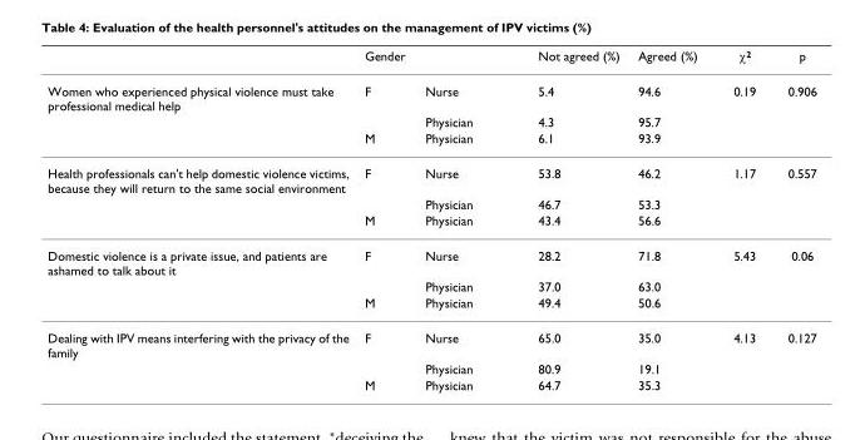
<table><thead><tr><td></td><td>Gender</td><td></td><td>Not agreed (%)</td><td>Agreed (%)</td><td>χ<sup>2</sup></td><td>p</td></tr></thead><tbody><tr><td rowspan="3">Women who experienced physical violence must take professional medical help</td><td>F</td><td>Nurse</td><td>5.4</td><td>94.6</td><td>0.19</td><td>0.906</td></tr><tr><td></td><td>Physician</td><td>4.3</td><td>95.7</td><td></td><td></td></tr><tr><td>M</td><td>Physician</td><td>6.1</td><td>93.9</td><td></td><td></td></tr><tr><td rowspan="3">Health professionals can&#x27;t help domestic violence victims, because they will return to the same social environment</td><td>F</td><td>Nurse</td><td>53.8</td><td>46.2</td><td>1.17</td><td>0.557</td></tr><tr><td></td><td>Physician</td><td>46.7</td><td>53.3</td><td></td><td></td></tr><tr><td>M</td><td>Physician</td><td>43.4</td><td>56.6</td><td></td><td></td></tr><tr><td rowspan="3">Domestic violence is a private issue, and patients are ashamed to talk about it</td><td>F</td><td>Nurse</td><td>28.2</td><td>71.8</td><td>5.43</td><td>0.06</td></tr><tr><td></td><td>Physician</td><td>37.0</td><td>63.0</td><td></td><td></td></tr><tr><td>M</td><td>Physician</td><td>49.4</td><td>50.6</td><td></td><td></td></tr><tr><td rowspan="3">Dealing with IPV means interfering with the privacy of the family</td><td>F</td><td>Nurse</td><td>65.0</td><td>35.0</td><td>4.13</td><td>0.127</td></tr><tr><td></td><td>Physician</td><td>80.9</td><td>19.1</td><td></td><td></td></tr><tr><td>M</td><td>Physician</td><td>64.7</td><td>35.3</td><td></td><td></td></tr></tbody></table>